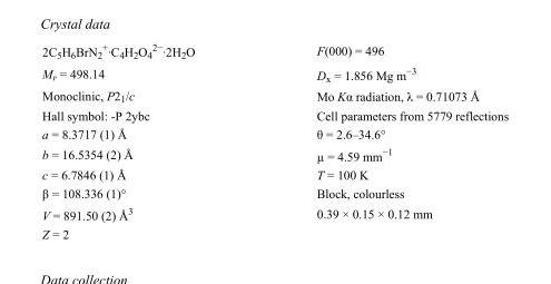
<table><tbody><tr><td>2C<sub>5</sub>H<sub>6</sub>BrN<sub>2</sub> <sup>+</sup>·C<sub>4</sub>H<sub>2</sub>O<sub>4</sub> <sup>2−</sup>·2H<sub>2</sub>O</td><td>F(000) = 496</td></tr><tr><td>M<sub>r</sub> = 498.14</td><td>D<sub>x</sub> = 1.856 Mg m<sup>−3</sup></td></tr><tr><td>Monoclinic, P2<sub>1</sub>/c</td><td>Mo Kα radiation, λ = 0.71073 Å</td></tr><tr><td>Hall symbol: -P 2ybc</td><td>Cell parameters from 5779 reflections</td></tr><tr><td>a = 8.3717 (1) Å</td><td>θ = 2.6–34.6°</td></tr><tr><td>b = 16.5354 (2) Å</td><td>µ = 4.59 mm<sup>−1</sup></td></tr><tr><td>c = 6.7846 (1) Å</td><td>T = 100 K</td></tr><tr><td>β = 108.336 (1)°</td><td>Block, colourless</td></tr><tr><td>V = 891.50 (2) Å<sup>3</sup></td><td>0.39 × 0.15 × 0.12 mm</td></tr><tr><td>Z = 2</td><td></td></tr></tbody></table>